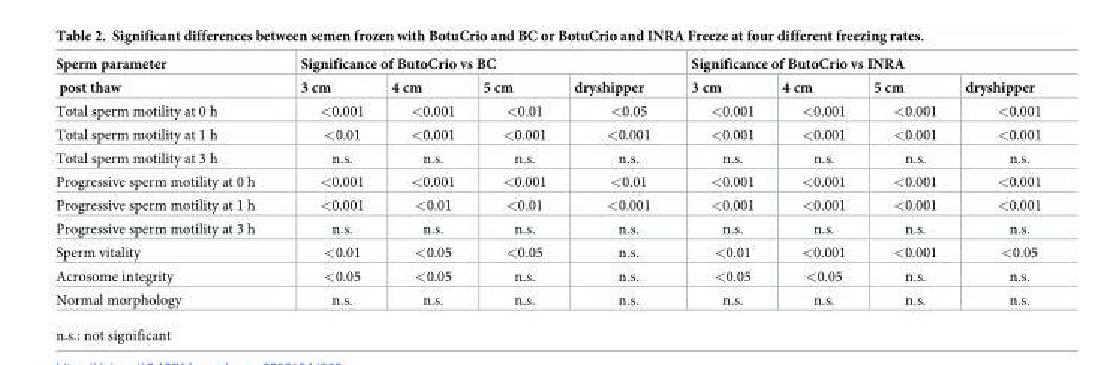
<table><thead><tr><td rowspan="2">Sperm parameter post thaw</td><td colspan="4">Significance of ButoCrio vs BC</td><td colspan="4">Significance of ButoCrio vs INRA</td></tr><tr><td>3 cm</td><td>4 cm</td><td>5 cm</td><td>dryshipper</td><td>3 cm</td><td>4 cm</td><td>5 cm</td><td>dryshipper</td></tr></thead><tbody><tr><td>Total sperm motility at 0 h</td><td>&lt;0.001</td><td>&lt;0.001</td><td>&lt;0.01</td><td>&lt;0.05</td><td>&lt;0.001</td><td>&lt;0.001</td><td>&lt;0.001</td><td>&lt;0.001</td></tr><tr><td>Total sperm motility at 1 h</td><td>&lt;0.01</td><td>&lt;0.001</td><td>&lt;0.001</td><td>&lt;0.001</td><td>&lt;0.001</td><td>&lt;0.001</td><td>&lt;0.001</td><td>&lt;0.001</td></tr><tr><td>Total sperm motility at 3 h</td><td>n.s.</td><td>n.s.</td><td>n.s.</td><td>n.s.</td><td>n.s.</td><td>n.s.</td><td>n.s.</td><td>n.s.</td></tr><tr><td>Progressive sperm motility at 0 h</td><td>&lt;0.001</td><td>&lt;0.001</td><td>&lt;0.001</td><td>&lt;0.01</td><td>&lt;0.001</td><td>&lt;0.001</td><td>&lt;0.001</td><td>&lt;0.001</td></tr><tr><td>Progressive sperm motility at 1 h</td><td>&lt;0.001</td><td>&lt;0.01</td><td>&lt;0.01</td><td>&lt;0.001</td><td>&lt;0.001</td><td>&lt;0.001</td><td>&lt;0.001</td><td>&lt;0.001</td></tr><tr><td>Progressive sperm motility at 3 h</td><td>n.s.</td><td>n.s.</td><td>n.s.</td><td>n.s.</td><td>n.s.</td><td>n.s.</td><td>n.s.</td><td>n.s.</td></tr><tr><td>Sperm vitality</td><td>&lt;0.01</td><td>&lt;0.05</td><td>&lt;0.05</td><td>n.s.</td><td>&lt;0.01</td><td>&lt;0.001</td><td>&lt;0.001</td><td>&lt;0.05</td></tr><tr><td>Acrosome integrity</td><td>&lt;0.05</td><td>&lt;0.05</td><td>n.s.</td><td>n.s.</td><td>&lt;0.05</td><td>&lt;0.05</td><td>n.s.</td><td>n.s.</td></tr><tr><td>Normal morphology</td><td>n.s.</td><td>n.s.</td><td>n.s.</td><td>n.s.</td><td>n.s.</td><td>n.s.</td><td>n.s.</td><td>n.s.</td></tr></tbody></table>